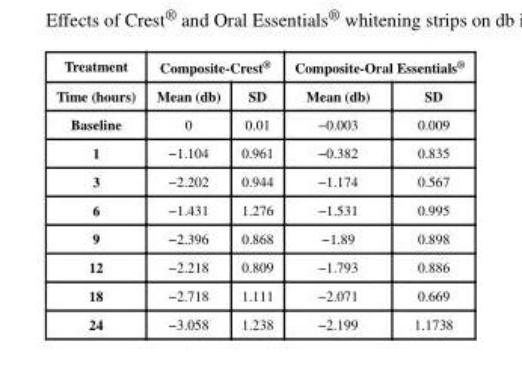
<table><thead><tr><td rowspan="2">Treatment Time (hours)</td><td colspan="2">Composite-Crest<sup>®</sup></td><td colspan="2">Composite-Oral Essentials<sup>®</sup></td></tr><tr><td>Mean (db)</td><td>SD</td><td>Mean (db)</td><td>SD</td></tr></thead><tbody><tr><td>Baseline</td><td>0</td><td>0.01</td><td>−0.003</td><td>0.009</td></tr><tr><td>1</td><td>−1.104</td><td>0.961</td><td>−0.382</td><td>0.835</td></tr><tr><td>3</td><td>−2.202</td><td>0.944</td><td>−1.174</td><td>0.567</td></tr><tr><td>6</td><td>−1.431</td><td>1.276</td><td>−1.531</td><td>0.995</td></tr><tr><td>9</td><td>−2.396</td><td>0.868</td><td>−1.89</td><td>0.898</td></tr><tr><td>12</td><td>−2.218</td><td>0.809</td><td>−1.793</td><td>0.886</td></tr><tr><td>18</td><td>−2.718</td><td>1.111</td><td>−2.071</td><td>0.669</td></tr><tr><td>24</td><td>−3.058</td><td>1.238</td><td>−2.199</td><td>1.1738</td></tr></tbody></table>